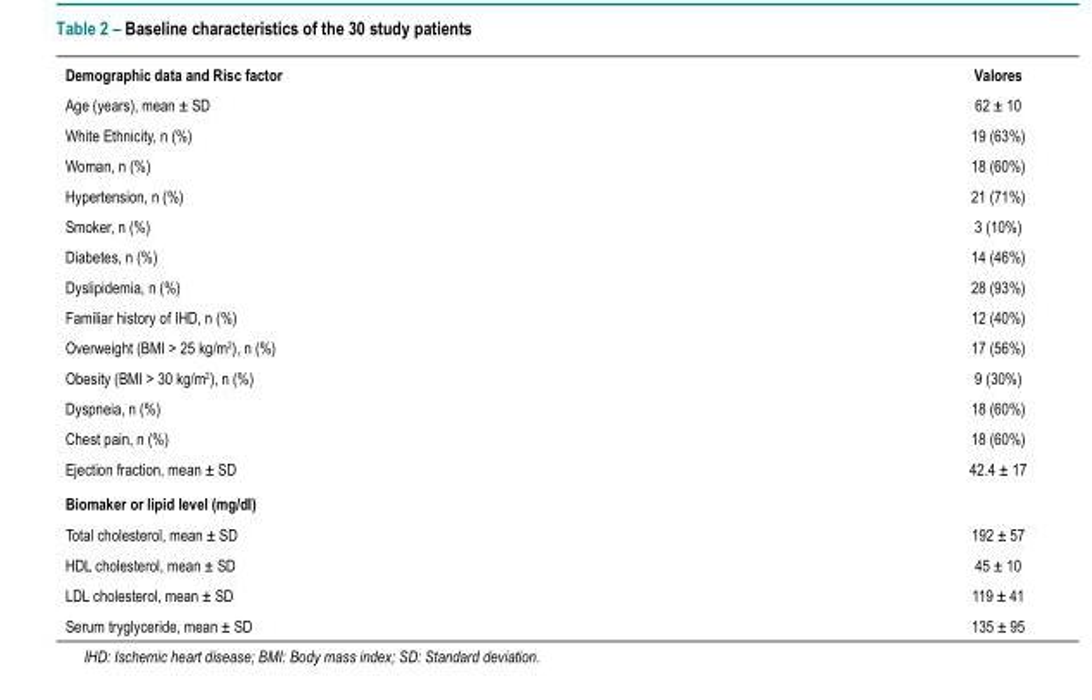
<table><tbody><tr><td>Demographic data and Risc factor</td><td>Valores</td></tr><tr><td>Age (years), mean ± SD</td><td>62 ± 10</td></tr><tr><td>White Ethnicity, n (%)</td><td>19 (63%)</td></tr><tr><td>Woman, n (%)</td><td>18 (60%)</td></tr><tr><td>Hypertension, n (%)</td><td>21 (71%)</td></tr><tr><td>Smoker, n (%)</td><td>3 (10%)</td></tr><tr><td>Diabetes, n (%)</td><td>14 (46%)</td></tr><tr><td>Dyslipidemia, n (%)</td><td>28 (93%)</td></tr><tr><td>Familiar history of IHD, n (%)</td><td>12 (40%)</td></tr><tr><td>Overweight (BMI &gt; 25 kg/m<sup>2</sup>), n (%)</td><td>17 (56%)</td></tr><tr><td>Obesity (BMI &gt; 30 kg/m<sup>2</sup>), n (%)</td><td>9 (30%)</td></tr><tr><td>Dyspneia, n (%)</td><td>18 (60%)</td></tr><tr><td>Chest pain, n (%)</td><td>18 (60%)</td></tr><tr><td>Ejection fraction, mean ± SD</td><td>42.4 ± 17</td></tr><tr><td colspan="2">Biomaker or lipid level (mg/dl)</td></tr><tr><td>Total cholesterol, mean ± SD</td><td>192 ± 57</td></tr><tr><td>HDL cholesterol, mean ± SD</td><td>45 ± 10</td></tr><tr><td>LDL cholesterol, mean ± SD</td><td>119 ± 41</td></tr><tr><td>Serum tryglyceride, mean ± SD</td><td>135 ± 95</td></tr></tbody></table>